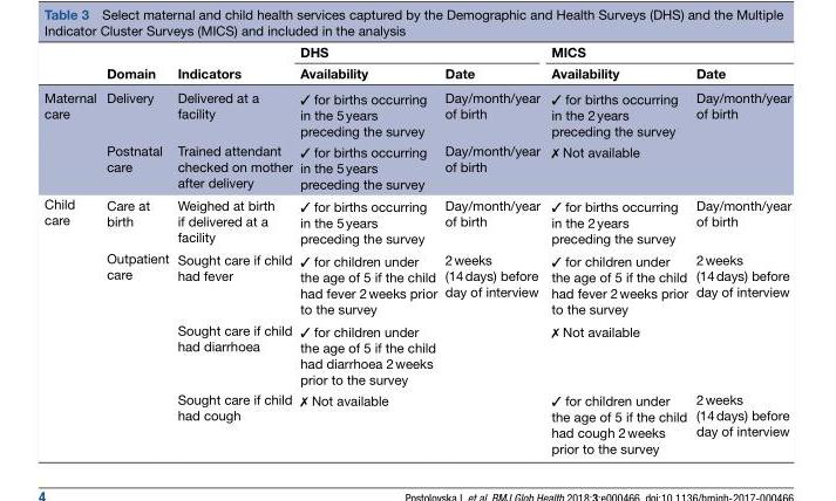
<table><thead><tr><td rowspan="2"></td><td rowspan="2">Domain</td><td rowspan="2">Indicators</td><td colspan="2">DHS</td><td colspan="2">MICS</td></tr><tr><td>Availability</td><td>Date</td><td>Availability</td><td>Date</td></tr></thead><tbody><tr><td rowspan="2">Maternal care</td><td>Delivery</td><td>Delivered at a facility</td><td>✓ for births occurring in the 5 years preceding the survey</td><td>Day/month/year of birth</td><td>✓ for births occurring in the 2 years preceding the survey</td><td>Day/month/year of birth</td></tr><tr><td>Postnatal care</td><td>Trained attendant checked on mother after delivery</td><td>✓ for births occurring in the 5 years preceding the survey</td><td>Day/month/year of birth</td><td colspan="2">✗ Not available</td></tr><tr><td rowspan="4">Child care</td><td>Care at birth</td><td>Weighed at birth if delivered at a facility</td><td>✓ for births occurring in the 5 years preceding the survey</td><td>Day/month/year of birth</td><td>✓ for births occurring in the 2 years preceding the survey</td><td>Day/month/year of birth</td></tr><tr><td rowspan="3">Outpatient care</td><td>Sought care if child had fever</td><td>✓ for children under the age of 5 if the child had fever 2 weeks prior to the survey</td><td rowspan="2">2 weeks (14 days) before day of interview</td><td>✓ for children under the age of 5 if the child had fever 2 weeks prior to the survey</td><td>2 weeks (14 days) before day of interview</td></tr><tr><td>Sought care if child had diarrhoea</td><td>✓ for children under the age of 5 if the child had diarrhoea 2 weeks prior to the survey</td><td colspan="2">✗ Not available</td></tr><tr><td>Sought care if child had cough</td><td colspan="2">✗ Not available</td><td>✓ for children under the age of 5 if the child had cough 2 weeks prior to the survey</td><td>2 weeks (14 days) before day of interview</td></tr></tbody></table>